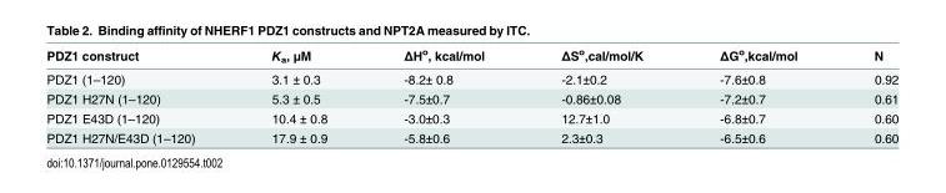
<table><thead><tr><td>PDZ1 construct</td><td>K<sub>a</sub>, μM</td><td>ΔH<sup>o</sup>, kcal/mol</td><td>ΔS<sup>o</sup>,cal/mol/K</td><td>ΔG<sup>o</sup>,kcal/mol</td><td>N</td></tr></thead><tbody><tr><td>PDZ1 (1–120)</td><td>3.1 ± 0.3</td><td>-8.2± 0.8</td><td>-2.1±0.2</td><td>-7.6±0.8</td><td>0.92</td></tr><tr><td>PDZ1 H27N (1–120)</td><td>5.3 ± 0.5</td><td>-7.5±0.7</td><td>-0.86±0.08</td><td>-7.2±0.7</td><td>0.61</td></tr><tr><td>PDZ1 E43D (1–120)</td><td>10.4 ± 0.8</td><td>-3.0±0.3</td><td>12.7±1.0</td><td>-6.8±0.7</td><td>0.60</td></tr><tr><td>PDZ1 H27N/E43D (1–120)</td><td>17.9 ± 0.9</td><td>-5.8±0.6</td><td>2.3±0.3</td><td>-6.5±0.6</td><td>0.60</td></tr></tbody></table>